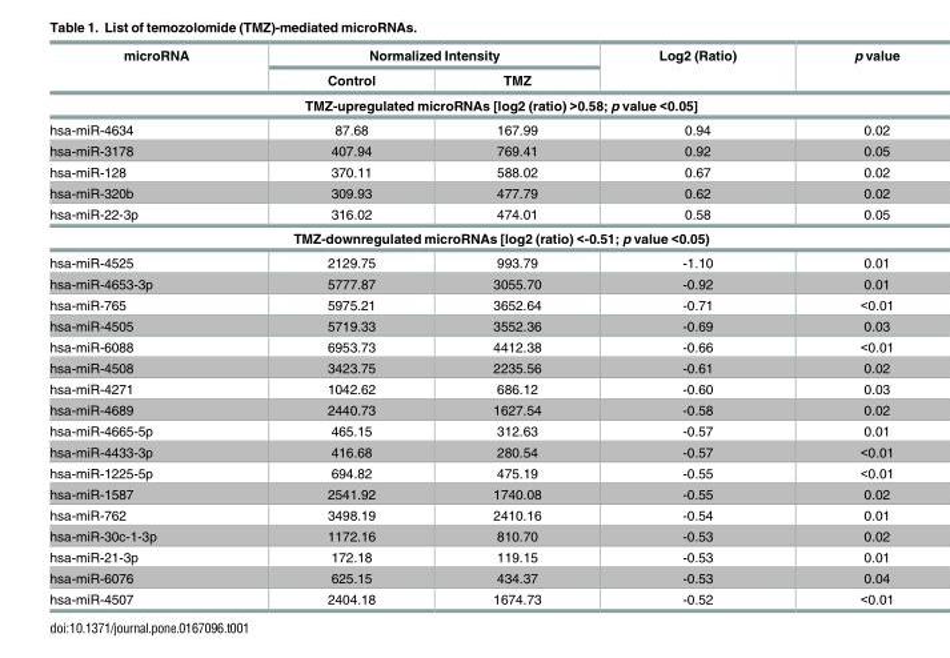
<table><thead><tr><td rowspan="2">microRNA</td><td colspan="2">Normalized Intensity</td><td rowspan="2">Log2 (Ratio)</td><td rowspan="2">p value</td></tr><tr><td>Control</td><td>TMZ</td></tr></thead><tbody><tr><td colspan="5">TMZ-upregulated microRNAs [log2 (ratio) &gt;0.58; p value &lt;0.05]</td></tr><tr><td>hsa-miR-4634</td><td>87.68</td><td>167.99</td><td>0.94</td><td>0.02</td></tr><tr><td>hsa-miR-3178</td><td>407.94</td><td>769.41</td><td>0.92</td><td>0.05</td></tr><tr><td>hsa-miR-128</td><td>370.11</td><td>588.02</td><td>0.67</td><td>0.02</td></tr><tr><td>hsa-miR-320b</td><td>309.93</td><td>477.79</td><td>0.62</td><td>0.02</td></tr><tr><td>hsa-miR-22-3p</td><td>316.02</td><td>474.01</td><td>0.58</td><td>0.05</td></tr><tr><td colspan="5">TMZ-downregulated microRNAs [log2 (ratio) &lt;-0.51; p value &lt;0.05)</td></tr><tr><td>hsa-miR-4525</td><td>2129.75</td><td>993.79</td><td>-1.10</td><td>0.01</td></tr><tr><td>hsa-miR-4653-3p</td><td>5777.87</td><td>3055.70</td><td>-0.92</td><td>0.01</td></tr><tr><td>hsa-miR-765</td><td>5975.21</td><td>3652.64</td><td>-0.71</td><td>&lt;0.01</td></tr><tr><td>hsa-miR-4505</td><td>5719.33</td><td>3552.36</td><td>-0.69</td><td>0.03</td></tr><tr><td>hsa-miR-6088</td><td>6953.73</td><td>4412.38</td><td>-0.66</td><td>&lt;0.01</td></tr><tr><td>hsa-miR-4508</td><td>3423.75</td><td>2235.56</td><td>-0.61</td><td>0.02</td></tr><tr><td>hsa-miR-4271</td><td>1042.62</td><td>686.12</td><td>-0.60</td><td>0.03</td></tr><tr><td>hsa-miR-4689</td><td>2440.73</td><td>1627.54</td><td>-0.58</td><td>0.02</td></tr><tr><td>hsa-miR-4665-5p</td><td>465.15</td><td>312.63</td><td>-0.57</td><td>0.01</td></tr><tr><td>hsa-miR-4433-3p</td><td>416.68</td><td>280.54</td><td>-0.57</td><td>&lt;0.01</td></tr><tr><td>hsa-miR-1225-5p</td><td>694.82</td><td>475.19</td><td>-0.55</td><td>&lt;0.01</td></tr><tr><td>hsa-miR-1587</td><td>2541.92</td><td>1740.08</td><td>-0.55</td><td>0.02</td></tr><tr><td>hsa-miR-762</td><td>3498.19</td><td>2410.16</td><td>-0.54</td><td>0.01</td></tr><tr><td>hsa-miR-30c-1-3p</td><td>1172.16</td><td>810.70</td><td>-0.53</td><td>0.02</td></tr><tr><td>hsa-miR-21-3p</td><td>172.18</td><td>119.15</td><td>-0.53</td><td>0.01</td></tr><tr><td>hsa-miR-6076</td><td>625.15</td><td>434.37</td><td>-0.53</td><td>0.04</td></tr><tr><td>hsa-miR-4507</td><td>2404.18</td><td>1674.73</td><td>-0.52</td><td>&lt;0.01</td></tr></tbody></table>